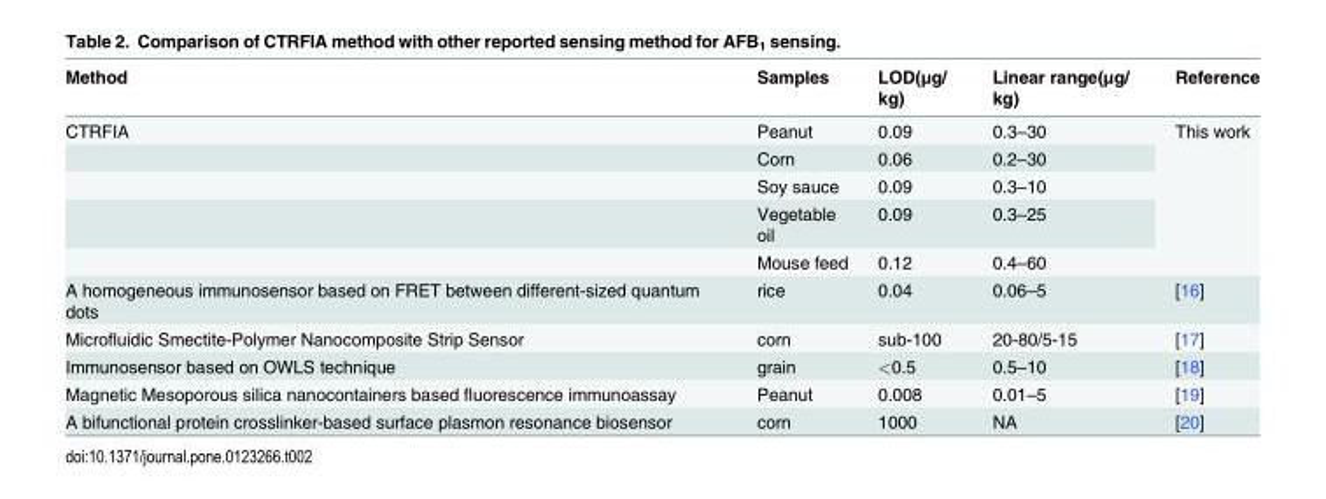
<table><thead><tr><td>Method</td><td>Samples</td><td>LOD(μg/ kg)</td><td>Linear range(μg/ kg)</td><td>Reference</td></tr></thead><tbody><tr><td rowspan="5">CTRFIA</td><td>Peanut</td><td>0.09</td><td>0.3–30</td><td rowspan="5">This work</td></tr><tr><td>Corn</td><td>0.06</td><td>0.2–30</td></tr><tr><td>Soy sauce</td><td>0.09</td><td>0.3–10</td></tr><tr><td>Vegetable oil</td><td>0.09</td><td>0.3–25</td></tr><tr><td>Mouse feed</td><td>0.12</td><td>0.4–60</td></tr><tr><td>A homogeneous immunosensor based on FRET between different-sized quantum dots</td><td>rice</td><td>0.04</td><td>0.06–5</td><td>[16]</td></tr><tr><td>Microfluidic Smectite-Polymer Nanocomposite Strip Sensor</td><td>corn</td><td>sub-100</td><td>20-80/5-15</td><td>[17]</td></tr><tr><td>Immunosensor based on OWLS technique</td><td>grain</td><td>&lt;0.5</td><td>0.5–10</td><td>[18]</td></tr><tr><td>Magnetic Mesoporous silica nanocontainers based fluorescence immunoassay</td><td>Peanut</td><td>0.008</td><td>0.01–5</td><td>[19]</td></tr><tr><td>A bifunctional protein crosslinker-based surface plasmon resonance biosensor</td><td>corn</td><td>1000</td><td>NA</td><td>[20]</td></tr></tbody></table>